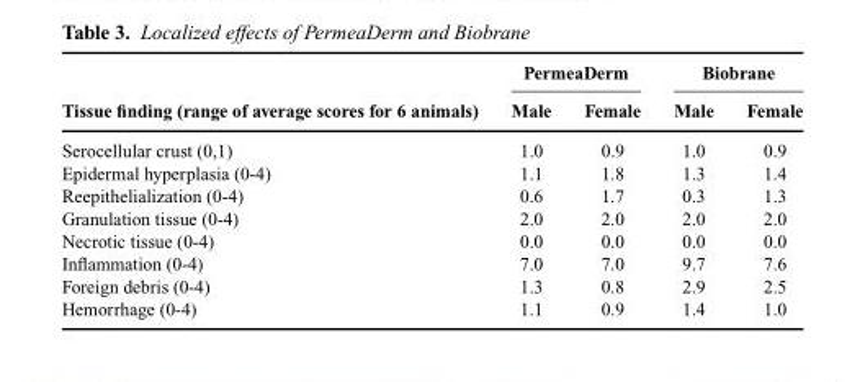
<table><thead><tr><td rowspan="2">Tissue finding (range of average scores for 6 animals)</td><td colspan="2">PermeaDerm</td><td colspan="2">Biobrane</td></tr><tr><td>Male</td><td>Female</td><td>Male</td><td>Female</td></tr></thead><tbody><tr><td>Serocellular crust (0,1)</td><td>1.0</td><td>0.9</td><td>1.0</td><td>0.9</td></tr><tr><td>Epidermal hyperplasia (0-4)</td><td>1.1</td><td>1.8</td><td>1.3</td><td>1.4</td></tr><tr><td>Reepithelialization (0-4)</td><td>0.6</td><td>1.7</td><td>0.3</td><td>1.3</td></tr><tr><td>Granulation tissue (0-4)</td><td>2.0</td><td>2.0</td><td>2.0</td><td>2.0</td></tr><tr><td>Necrotic tissue (0-4)</td><td>0.0</td><td>0.0</td><td>0.0</td><td>0.0</td></tr><tr><td>Inflammation (0-4)</td><td>7.0</td><td>7.0</td><td>9.7</td><td>7.6</td></tr><tr><td>Foreign debris (0-4)</td><td>1.3</td><td>0.8</td><td>2.9</td><td>2.5</td></tr><tr><td>Hemorrhage (0-4)</td><td>1.1</td><td>0.9</td><td>1.4</td><td>1.0</td></tr></tbody></table>